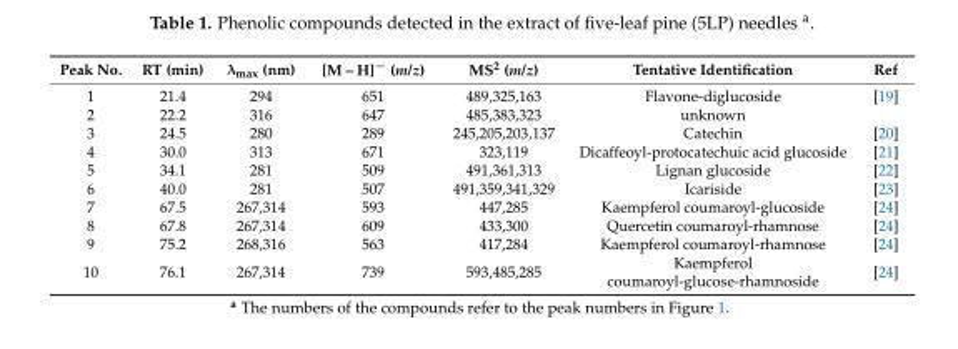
<table><thead><tr><td>Peak No.</td><td>RT (min)</td><td>λ<sub>max</sub> (nm)</td><td>[M – H]<sup>−</sup> (m/z)</td><td>MS<sup>2</sup> (m/z)</td><td>Tentative Identification</td><td>Ref</td></tr></thead><tbody><tr><td>1</td><td>21.4</td><td>294</td><td>651</td><td>489,325,163</td><td>Flavone-diglucoside</td><td>[19]</td></tr><tr><td>2</td><td>22.2</td><td>316</td><td>647</td><td>485,383,323</td><td>unknown</td><td></td></tr><tr><td>3</td><td>24.5</td><td>280</td><td>289</td><td>245,205,203,137</td><td>Catechin</td><td>[20]</td></tr><tr><td>4</td><td>30.0</td><td>313</td><td>671</td><td>323,119</td><td>Dicaffeoyl-protocatechuic acid glucoside</td><td>[21]</td></tr><tr><td>5</td><td>34.1</td><td>281</td><td>509</td><td>491,361,313</td><td>Lignan glucoside</td><td>[22]</td></tr><tr><td>6</td><td>40.0</td><td>281</td><td>507</td><td>491,359,341,329</td><td>Icariside</td><td>[23]</td></tr><tr><td>7</td><td>67.5</td><td>267,314</td><td>593</td><td>447,285</td><td>Kaempferol coumaroyl-glucoside</td><td>[24]</td></tr><tr><td>8</td><td>67.8</td><td>267,314</td><td>609</td><td>433,300</td><td>Quercetin coumaroyl-rhamnose</td><td>[24]</td></tr><tr><td>9</td><td>75.2</td><td>268,316</td><td>563</td><td>417,284</td><td>Kaempferol coumaroyl-rhamnose</td><td>[24]</td></tr><tr><td>10</td><td>76.1</td><td>267,314</td><td>739</td><td>593,485,285</td><td>Kaempferol coumaroyl-glucose-rhamnoside</td><td>[24]</td></tr></tbody></table>